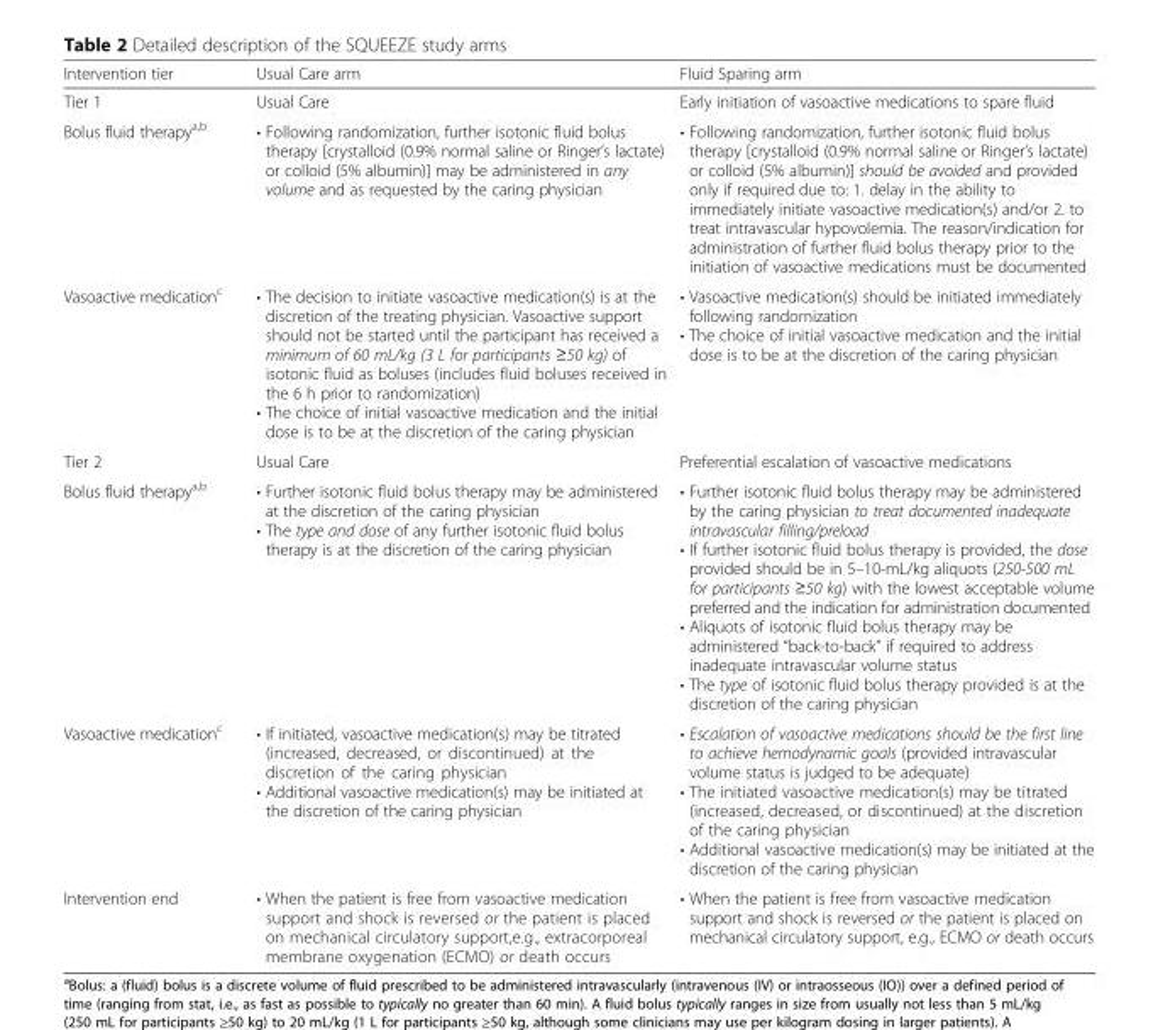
<table><thead><tr><td>Intervention tier</td><td>Usual Care arm</td><td>Fluid Sparing arm</td></tr></thead><tbody><tr><td>Tier 1</td><td>Usual Care</td><td>Early initiation of vasoactive medications to spare fluid</td></tr><tr><td>Bolus fluid therapy<sup>a,b</sup></td><td>• Following randomization, further isotonic fluid bolus therapy [crystalloid (0.9% normal saline or Ringer’s lactate) or colloid (5% albumin)] may be administered in any volume and as requested by the caring physician</td><td>• Following randomization, further isotonic fluid bolus therapy [crystalloid (0.9% normal saline or Ringer’s lactate) or colloid (5% albumin)] should be avoided and provided only if required due to: 1. delay in the ability to immediately initiate vasoactive medication(s) and/or 2. to treat intravascular hypovolemia. The reason/indication for administration of further fluid bolus therapy prior to the initiation of vasoactive medications must be documented</td></tr><tr><td>Vasoactive medication<sup>c</sup></td><td>• The decision to initiate vasoactive medication(s) is at the discretion of the treating physician. Vasoactive support should not be started until the participant has received a minimum of 60 mL/kg (3 L for participants ≥50 kg) of isotonic fluid as boluses (includes fluid boluses received in the 6 h prior to randomization) • The choice of initial vasoactive medication and the initial dose is to be at the discretion of the caring physician</td><td>• Vasoactive medication(s) should be initiated immediately following randomization • The choice of initial vasoactive medication and the initial dose is to be at the discretion of the caring physician</td></tr><tr><td>Tier 2</td><td>Usual Care</td><td>Preferential escalation of vasoactive medications</td></tr><tr><td>Bolus fluid therapy<sup>a,b</sup></td><td>• Further isotonic fluid bolus therapy may be administered at the discretion of the caring physician • The type and dose of any further isotonic fluid bolus therapy is at the discretion of the caring physician</td><td>• Further isotonic fluid bolus therapy may be administered by the caring physician to treat documented inadequate intravascular filling/preload • If further isotonic fluid bolus therapy is provided, the dose provided should be in 5–10-mL/kg aliquots (250-500 mL for participants ≥50 kg) with the lowest acceptable volume preferred and the indication for administration documented • Aliquots of isotonic fluid bolus therapy may be administered “back-to-back” if required to address inadequate intravascular volume status • The type of isotonic fluid bolus therapy provided is at the discretion of the caring physician</td></tr><tr><td>Vasoactive medication<sup>c</sup></td><td>• If initiated, vasoactive medication(s) may be titrated (increased, decreased, or discontinued) at the discretion of the caring physician • Additional vasoactive medication(s) may be initiated at the discretion of the caring physician</td><td>• Escalation of vasoactive medications should be the first line to achieve hemodynamic goals (provided intravascular volume status is judged to be adequate) • The initiated vasoactive medication(s) may be titrated (increased, decreased, or discontinued) at the discretion of the caring physician • Additional vasoactive medication(s) may be initiated at the discretion of the caring physician</td></tr><tr><td>Intervention end</td><td>• When the patient is free from vasoactive medication support and shock is reversed or the patient is placed on mechanical circulatory support,e.g., extracorporeal membrane oxygenation (ECMO) or death occurs</td><td>• When the patient is free from vasoactive medication support and shock is reversed or the patient is placed on mechanical circulatory support, e.g., ECMO or death occurs</td></tr></tbody></table>